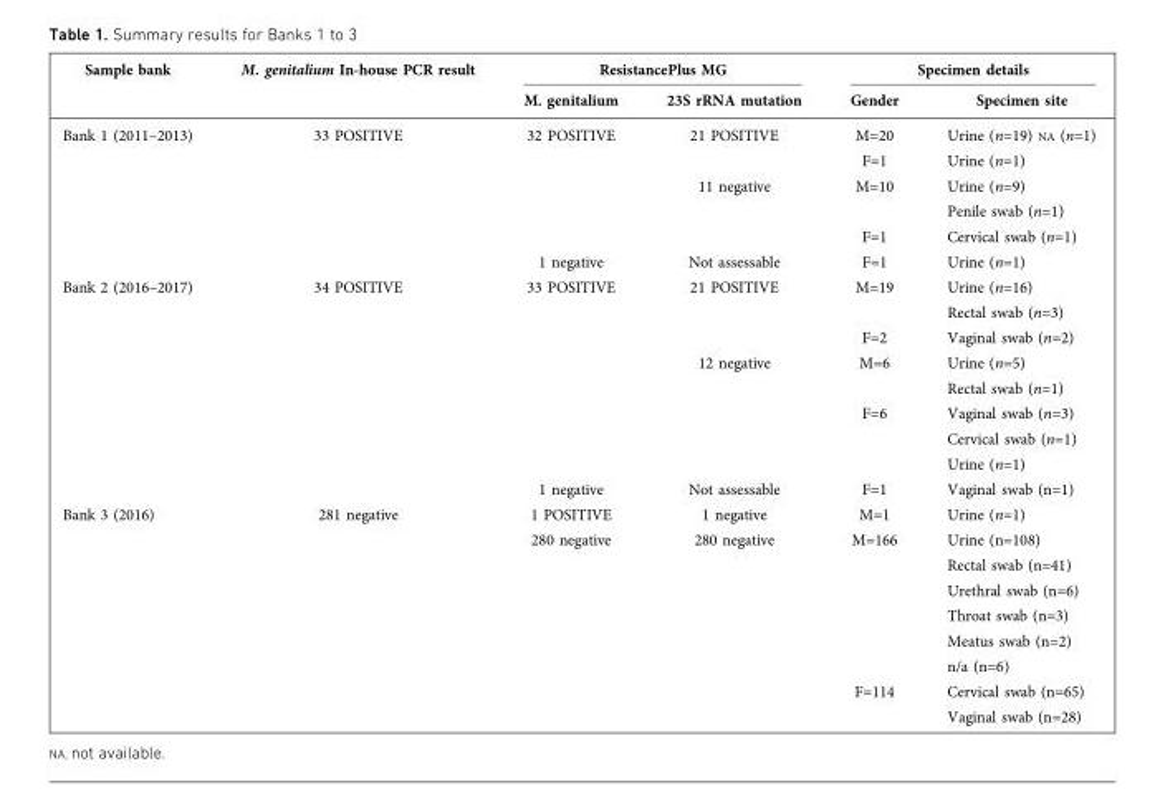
<table><thead><tr><td rowspan="2">Sample bank</td><td rowspan="2">M. genitalium In-house PCR result</td><td colspan="2">ResistancePlus MG</td><td colspan="2">Specimen details</td></tr><tr><td>M. genitalium</td><td>23S rRNA mutation</td><td>Gender</td><td>Specimen site</td></tr></thead><tbody><tr><td rowspan="6">Bank 1 (2011–2013)</td><td>33 POSITIVE</td><td>32 POSITIVE</td><td>21 POSITIVE</td><td>M=20</td><td>Urine (n=19) NA (n=1)</td></tr><tr><td></td><td></td><td></td><td>F=1</td><td>Urine (n=1)</td></tr><tr><td></td><td></td><td>11 negative</td><td>M=10</td><td>Urine (n=9)</td></tr><tr><td></td><td></td><td></td><td></td><td>Penile swab (n=1)</td></tr><tr><td></td><td></td><td></td><td>F=1</td><td>Cervical swab (n=1)</td></tr><tr><td></td><td>1 negative</td><td>Not assessable</td><td>F=1</td><td>Urine (n=1)</td></tr><tr><td rowspan="9">Bank 2 (2016–2017)</td><td>34 POSITIVE</td><td>33 POSITIVE</td><td>21 POSITIVE</td><td>M=19</td><td>Urine (n=16)</td></tr><tr><td></td><td></td><td></td><td></td><td>Rectal swab (n=3)</td></tr><tr><td></td><td></td><td></td><td>F=2</td><td>Vaginal swab (n=2)</td></tr><tr><td></td><td></td><td>12 negative</td><td>M=6</td><td>Urine (n=5)</td></tr><tr><td></td><td></td><td></td><td></td><td>Rectal swab (n=1)</td></tr><tr><td></td><td></td><td></td><td>F=6</td><td>Vaginal swab (n=3)</td></tr><tr><td></td><td></td><td></td><td></td><td>Cervical swab (n=1)</td></tr><tr><td></td><td></td><td></td><td></td><td>Urine (n=1)</td></tr><tr><td></td><td>1 negative</td><td>Not assessable</td><td>F=1</td><td>Vaginal swab (n=1)</td></tr><tr><td rowspan="9">Bank 3 (2016)</td><td>281 negative</td><td>1 POSITIVE</td><td>1 negative</td><td>M=1</td><td>Urine (n=1)</td></tr><tr><td></td><td>280 negative</td><td>280 negative</td><td>M=166</td><td>Urine (n=108)</td></tr><tr><td></td><td></td><td></td><td></td><td>Rectal swab (n=41)</td></tr><tr><td></td><td></td><td></td><td></td><td>Urethral swab (n=6)</td></tr><tr><td></td><td></td><td></td><td></td><td>Throat swab (n=3)</td></tr><tr><td></td><td></td><td></td><td></td><td>Meatus swab (n=2)</td></tr><tr><td></td><td></td><td></td><td></td><td>n/a (n=6)</td></tr><tr><td></td><td></td><td></td><td>F=114</td><td>Cervical swab (n=65)</td></tr><tr><td></td><td></td><td></td><td></td><td>Vaginal swab (n=28)</td></tr></tbody></table>